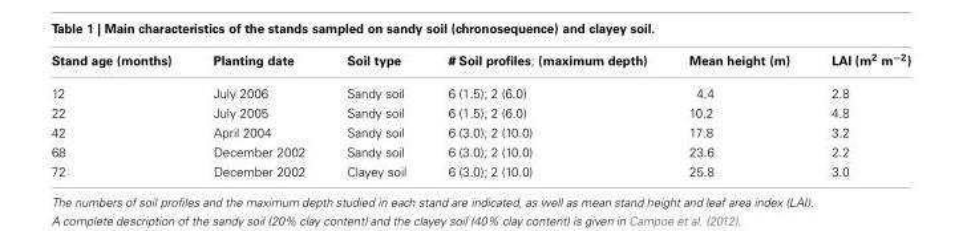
<table><thead><tr><td>Stand age (months)</td><td>Planting date</td><td>Soil type</td><td># Soil profiles; (maximum depth)</td><td>Mean height (m)</td><td>LAI (m<sup>2</sup> m<sup>−2</sup>)</td></tr></thead><tbody><tr><td>12</td><td>July 2006</td><td>Sandy soil</td><td>6 (1.5); 2 (6.0)</td><td>4.4</td><td>2.8</td></tr><tr><td>22</td><td>July 2005</td><td>Sandy soil</td><td>6 (1.5); 2 (6.0)</td><td>10.2</td><td>4.8</td></tr><tr><td>42</td><td>April 2004</td><td>Sandy soil</td><td>6 (3.0); 2 (10.0)</td><td>17.8</td><td>3.2</td></tr><tr><td>68</td><td>December 2002</td><td>Sandy soil</td><td>6 (3.0); 2 (10.0)</td><td>23.6</td><td>2.2</td></tr><tr><td>72</td><td>December 2002</td><td>Clayey soil</td><td>6 (3.0); 2 (10.0)</td><td>25.8</td><td>3.0</td></tr></tbody></table>